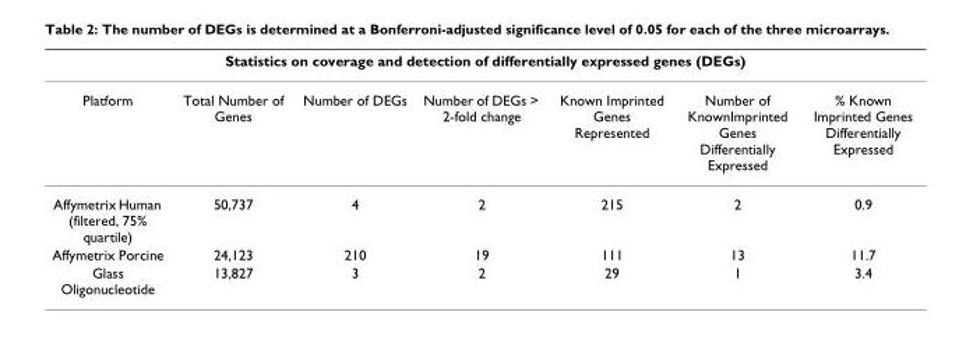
<table><thead><tr><td colspan="7">Statistics on coverage and detection of differentially expressed genes (DEGs)</td></tr><tr><td>Platform</td><td>Total Number of Genes</td><td>Number of DEGs</td><td>Number of DEGs &gt; 2-fold change</td><td>Known Imprinted Genes Represented</td><td>Number of KnownImprinted Genes Differentially Expressed</td><td>% Known Imprinted Genes Differentially Expressed</td></tr></thead><tbody><tr><td>Affymetrix Human (filtered, 75% quartile)</td><td>50,737</td><td>4</td><td>2</td><td>215</td><td>2</td><td>0.9</td></tr><tr><td>Affymetrix Porcine</td><td>24,123</td><td>210</td><td>19</td><td>111</td><td>13</td><td>11.7</td></tr><tr><td>Glass Oligonucleotide</td><td>13,827</td><td>3</td><td>2</td><td>29</td><td>1</td><td>3.4</td></tr></tbody></table>